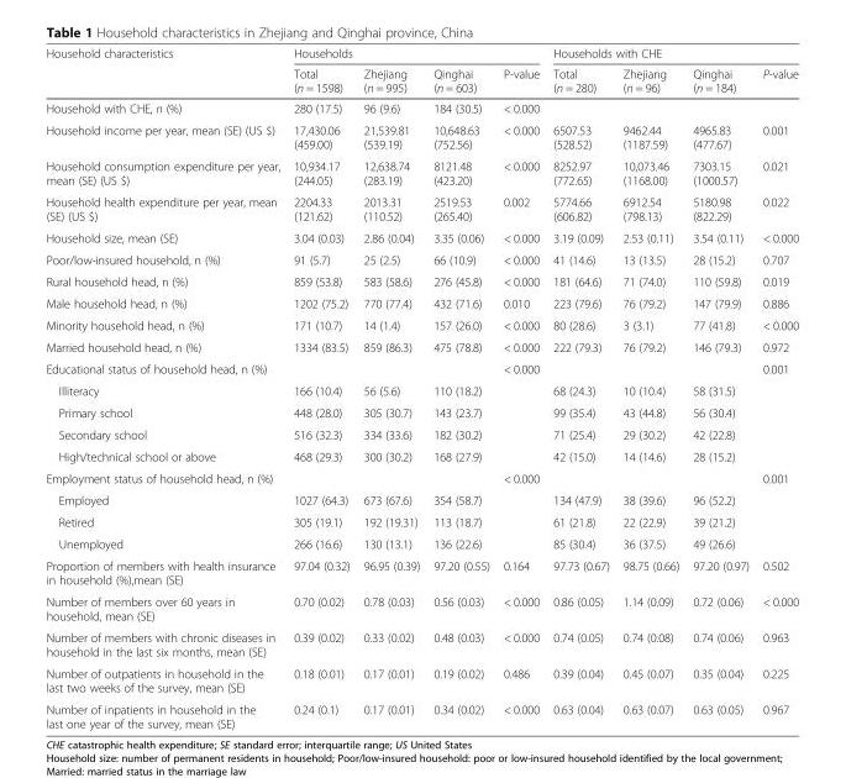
<table><thead><tr><td rowspan="2">Household characteristics</td><td colspan="4">Households</td><td colspan="4">Households with CHE</td></tr><tr><td>Total (n = 1598)</td><td>Zhejiang (n = 995)</td><td>Qinghai (n = 603)</td><td>P-value</td><td>Total (n = 280)</td><td>Zhejiang (n = 96)</td><td>Qinghai (n = 184)</td><td>P-value</td></tr></thead><tbody><tr><td>Household with CHE, n (%)</td><td>280 (17.5)</td><td>96 (9.6)</td><td>184 (30.5)</td><td>&lt; 0.000</td><td></td><td></td><td></td><td></td></tr><tr><td>Household income per year, mean (SE) (US $)</td><td>17,430.06 (459.00)</td><td>21,539.81 (539.19)</td><td>10,648.63 (752.56)</td><td>&lt; 0.000</td><td>6507.53 (528.52)</td><td>9462.44 (1187.59)</td><td>4965.83 (477.67)</td><td>0.001</td></tr><tr><td>Household consumption expenditure per year, mean (SE) (US $)</td><td>10,934.17 (244.05)</td><td>12,638.74 (283.19)</td><td>8121.48 (423.20)</td><td>&lt; 0.000</td><td>8252.97 (772.65)</td><td>10,073.46 (1168.00)</td><td>7303.15 (1000.57)</td><td>0.021</td></tr><tr><td>Household health expenditure per year, mean (SE) (US $)</td><td>2204.33 (121.62)</td><td>2013.31 (110.52)</td><td>2519.53 (265.40)</td><td>0.002</td><td>5774.66 (606.82)</td><td>6912.54 (798.13)</td><td>5180.98 (822.29)</td><td>0.022</td></tr><tr><td>Household size, mean (SE)</td><td>3.04 (0.03)</td><td>2.86 (0.04)</td><td>3.35 (0.06)</td><td>&lt; 0.000</td><td>3.19 (0.09)</td><td>2.53 (0.11)</td><td>3.54 (0.11)</td><td>&lt; 0.000</td></tr><tr><td>Poor/low-insured household, n (%)</td><td>91 (5.7)</td><td>25 (2.5)</td><td>66 (10.9)</td><td>&lt; 0.000</td><td>41 (14.6)</td><td>13 (13.5)</td><td>28 (15.2)</td><td>0.707</td></tr><tr><td>Rural household head, n (%)</td><td>859 (53.8)</td><td>583 (58.6)</td><td>276 (45.8)</td><td>&lt; 0.000</td><td>181 (64.6)</td><td>71 (74.0)</td><td>110 (59.8)</td><td>0.019</td></tr><tr><td>Male household head, n (%)</td><td>1202 (75.2)</td><td>770 (77.4)</td><td>432 (71.6)</td><td>0.010</td><td>223 (79.6)</td><td>76 (79.2)</td><td>147 (79.9)</td><td>0.886</td></tr><tr><td>Minority household head, n (%)</td><td>171 (10.7)</td><td>14 (1.4)</td><td>157 (26.0)</td><td>&lt; 0.000</td><td>80 (28.6)</td><td>3 (3.1)</td><td>77 (41.8)</td><td>&lt; 0.000</td></tr><tr><td>Married household head, n (%)</td><td>1334 (83.5)</td><td>859 (86.3)</td><td>475 (78.8)</td><td>&lt; 0.000</td><td>222 (79.3)</td><td>76 (79.2)</td><td>146 (79.3)</td><td>0.972</td></tr><tr><td>Educational status of household head, n (%)</td><td></td><td></td><td></td><td>&lt; 0.000</td><td></td><td></td><td></td><td>0.001</td></tr><tr><td>Illiteracy</td><td>166 (10.4)</td><td>56 (5.6)</td><td>110 (18.2)</td><td></td><td>68 (24.3)</td><td>10 (10.4)</td><td>58 (31.5)</td><td></td></tr><tr><td>Primary school</td><td>448 (28.0)</td><td>305 (30.7)</td><td>143 (23.7)</td><td></td><td>99 (35.4)</td><td>43 (44.8)</td><td>56 (30.4)</td><td></td></tr><tr><td>Secondary school</td><td>516 (32.3)</td><td>334 (33.6)</td><td>182 (30.2)</td><td></td><td>71 (25.4)</td><td>29 (30.2)</td><td>42 (22.8)</td><td></td></tr><tr><td>High/technical school or above</td><td>468 (29.3)</td><td>300 (30.2)</td><td>168 (27.9)</td><td></td><td>42 (15.0)</td><td>14 (14.6)</td><td>28 (15.2)</td><td></td></tr><tr><td>Employment status of household head, n (%)</td><td></td><td></td><td></td><td>&lt; 0.000</td><td></td><td></td><td></td><td>0.001</td></tr><tr><td>Employed</td><td>1027 (64.3)</td><td>673 (67.6)</td><td>354 (58.7)</td><td></td><td>134 (47.9)</td><td>38 (39.6)</td><td>96 (52.2)</td><td></td></tr><tr><td>Retired</td><td>305 (19.1)</td><td>192 (19.31)</td><td>113 (18.7)</td><td></td><td>61 (21.8)</td><td>22 (22.9)</td><td>39 (21.2)</td><td></td></tr><tr><td>Unemployed</td><td>266 (16.6)</td><td>130 (13.1)</td><td>136 (22.6)</td><td></td><td>85 (30.4)</td><td>36 (37.5)</td><td>49 (26.6)</td><td></td></tr><tr><td>Proportion of members with health insurance in household (%),mean (SE)</td><td>97.04 (0.32)</td><td>96.95 (0.39)</td><td>97.20 (0.55)</td><td>0.164</td><td>97.73 (0.67)</td><td>98.75 (0.66)</td><td>97.20 (0.97)</td><td>0.502</td></tr><tr><td>Number of members over 60 years in household, mean (SE)</td><td>0.70 (0.02)</td><td>0.78 (0.03)</td><td>0.56 (0.03)</td><td>&lt; 0.000</td><td>0.86 (0.05)</td><td>1.14 (0.09)</td><td>0.72 (0.06)</td><td>&lt; 0.000</td></tr><tr><td>Number of members with chronic diseases in household in the last six months, mean (SE)</td><td>0.39 (0.02)</td><td>0.33 (0.02)</td><td>0.48 (0.03)</td><td>&lt; 0.000</td><td>0.74 (0.05)</td><td>0.74 (0.08)</td><td>0.74 (0.06)</td><td>0.963</td></tr><tr><td>Number of outpatients in household in the last two weeks of the survey, mean (SE)</td><td>0.18 (0.01)</td><td>0.17 (0.01)</td><td>0.19 (0.02)</td><td>0.486</td><td>0.39 (0.04)</td><td>0.45 (0.07)</td><td>0.35 (0.04)</td><td>0.225</td></tr><tr><td>Number of inpatients in household in the last one year of the survey, mean (SE)</td><td>0.24 (0.1)</td><td>0.17 (0.01)</td><td>0.34 (0.02)</td><td>&lt; 0.000</td><td>0.63 (0.04)</td><td>0.63 (0.07)</td><td>0.63 (0.05)</td><td>0.967</td></tr></tbody></table>